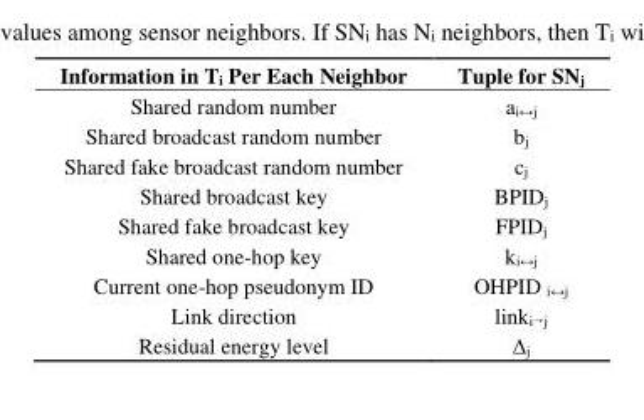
<table><thead><tr><td>Information in T<sub>i</sub> Per Each Neighbor</td><td>Tuple for SN<sub>j</sub></td></tr></thead><tbody><tr><td>Shared random number</td><td>a<sub>i↔j</sub></td></tr><tr><td>Shared broadcast random number</td><td>b<sub>j</sub></td></tr><tr><td>Shared fake broadcast random number</td><td>c<sub>j</sub></td></tr><tr><td>Shared broadcast key</td><td>BPID<sub>j</sub></td></tr><tr><td>Shared fake broadcast key</td><td>FPID<sub>j</sub></td></tr><tr><td>Shared one-hop key</td><td>k<sub>i↔j</sub></td></tr><tr><td>Current one-hop pseudonym ID</td><td>OHPID <sub>i↔j</sub></td></tr><tr><td>Link direction</td><td>link<sub>i→j</sub></td></tr><tr><td>Residual energy level</td><td>Δ<sub>j</sub></td></tr></tbody></table>